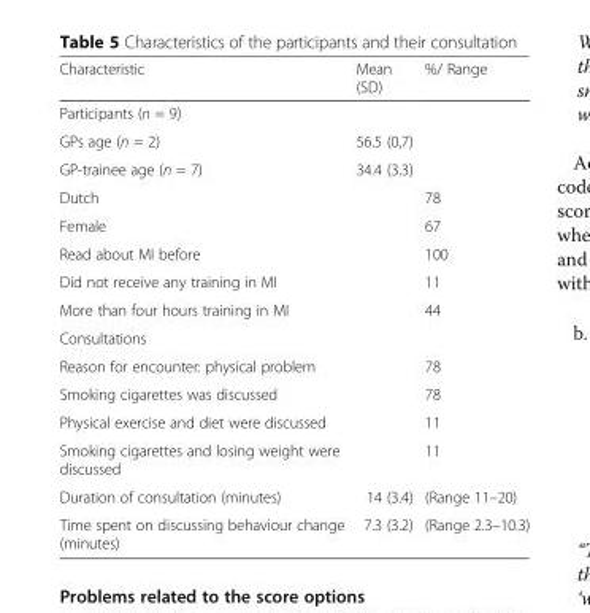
<table><thead><tr><td>Characteristic</td><td>Mean (SD)</td><td>%/ Range</td></tr></thead><tbody><tr><td colspan="3">Participants (n = 9)</td></tr><tr><td>GPs age (n = 2)</td><td>56.5 (0,7)</td><td></td></tr><tr><td>GP-trainee age (n = 7)</td><td>34.4 (3.3)</td><td></td></tr><tr><td>Dutch</td><td></td><td>78</td></tr><tr><td>Female</td><td></td><td>67</td></tr><tr><td>Read about MI before</td><td></td><td>100</td></tr><tr><td>Did not receive any training in MI</td><td></td><td>11</td></tr><tr><td>More than four hours training in MI</td><td></td><td>44</td></tr><tr><td colspan="3">Consultations</td></tr><tr><td>Reason for encounter: physical problem</td><td></td><td>78</td></tr><tr><td>Smoking cigarettes was discussed</td><td></td><td>78</td></tr><tr><td>Physical exercise and diet were discussed</td><td></td><td>11</td></tr><tr><td>Smoking cigarettes and losing weight were discussed</td><td></td><td>11</td></tr><tr><td>Duration of consultation (minutes)</td><td>14 (3.4)</td><td>(Range 11–20)</td></tr><tr><td>Time spent on discussing behaviour change (minutes)</td><td>7.3 (3.2)</td><td>(Range 2.3–10.3)</td></tr></tbody></table>